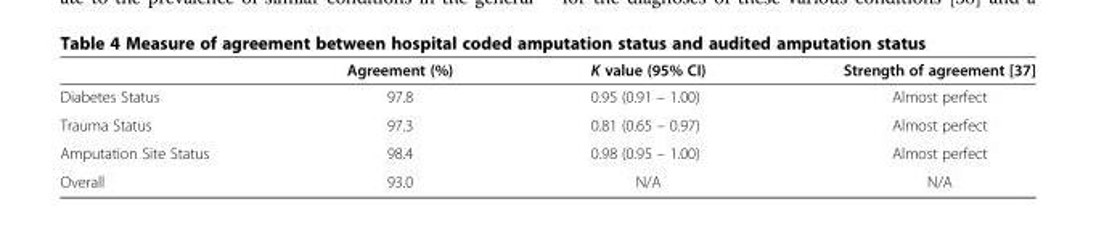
<table><thead><tr><td></td><td>Agreement (%)</td><td>K value (95% CI)</td><td>Strength of agreement [37]</td></tr></thead><tbody><tr><td>Diabetes Status</td><td>97.8</td><td>0.95 (0.91 – 1.00)</td><td>Almost perfect</td></tr><tr><td>Trauma Status</td><td>97.3</td><td>0.81 (0.65 – 0.97)</td><td>Almost perfect</td></tr><tr><td>Amputation Site Status</td><td>98.4</td><td>0.98 (0.95 – 1.00)</td><td>Almost perfect</td></tr><tr><td>Overall</td><td>93.0</td><td>N/A</td><td>N/A</td></tr></tbody></table>